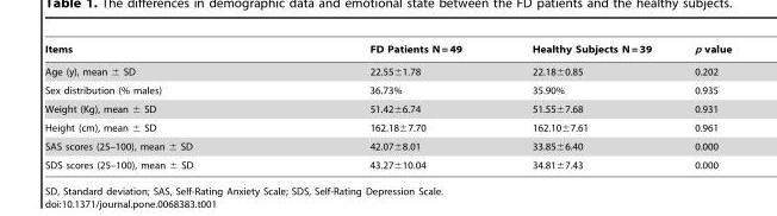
<table><thead><tr><td>Items</td><td>FD Patients N = 49</td><td>Healthy Subjects N = 39</td><td>p value</td></tr></thead><tbody><tr><td>Age (y), mean ± SD</td><td>22.55±1.78</td><td>22.18±0.85</td><td>0.202</td></tr><tr><td>Sex distribution (% males)</td><td>36.73%</td><td>35.90%</td><td>0.935</td></tr><tr><td>Weight (Kg), mean ± SD</td><td>51.42±6.74</td><td>51.55±7.68</td><td>0.931</td></tr><tr><td>Height (cm), mean ± SD</td><td>162.18±7.70</td><td>162.10±7.61</td><td>0.961</td></tr><tr><td>SAS scores (25–100), mean ± SD</td><td>42.07±8.01</td><td>33.85±6.40</td><td>0.000</td></tr><tr><td>SDS scores (25–100), mean ± SD</td><td>43.27±10.04</td><td>34.81±7.43</td><td>0.000</td></tr></tbody></table>